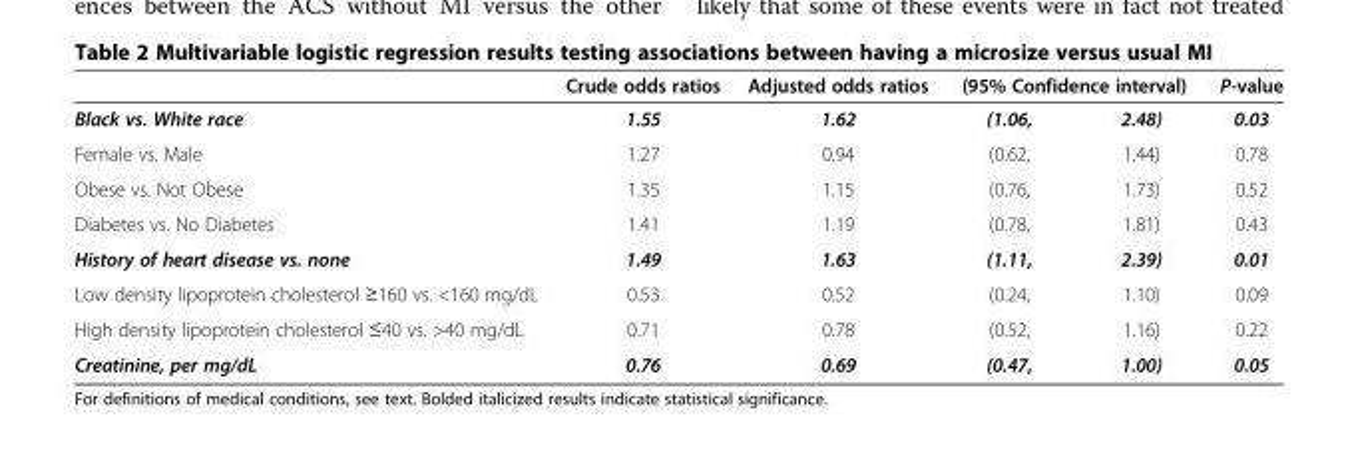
<table><thead><tr><td rowspan="2">Black vs. White race</td><td rowspan="2">Crude odds ratios 1.55</td><td rowspan="2">Adjusted odds ratios 1.62</td><td colspan="2">(95% Confidence interval)</td><td rowspan="2">P-value 0.03</td></tr><tr><td>(1.06,</td><td>2.48)</td></tr></thead><tbody><tr><td>Female vs. Male</td><td>1.27</td><td>0.94</td><td>(0.62,</td><td>1.44)</td><td>0.78</td></tr><tr><td>Obese vs. Not Obese</td><td>1.35</td><td>1.15</td><td>(0.76,</td><td>1.73)</td><td>0.52</td></tr><tr><td>Diabetes vs. No Diabetes</td><td>1.41</td><td>1.19</td><td>(0.78,</td><td>1.81)</td><td>0.43</td></tr><tr><td>History of heart disease vs. none</td><td>1.49</td><td>1.63</td><td>(1.11,</td><td>2.39)</td><td>0.01</td></tr><tr><td>Low density lipoprotein cholesterol ≥160 vs. &lt;160 mg/dL</td><td>0.53</td><td>0.52</td><td>(0.24,</td><td>1.10)</td><td>0.09</td></tr><tr><td>High density lipoprotein cholesterol ≤40 vs. &gt;40 mg/dL</td><td>0.71</td><td>0.78</td><td>(0.52,</td><td>1.16)</td><td>0.22</td></tr><tr><td>Creatinine, per mg/dL</td><td>0.76</td><td>0.69</td><td>(0.47,</td><td>1.00)</td><td>0.05</td></tr></tbody></table>